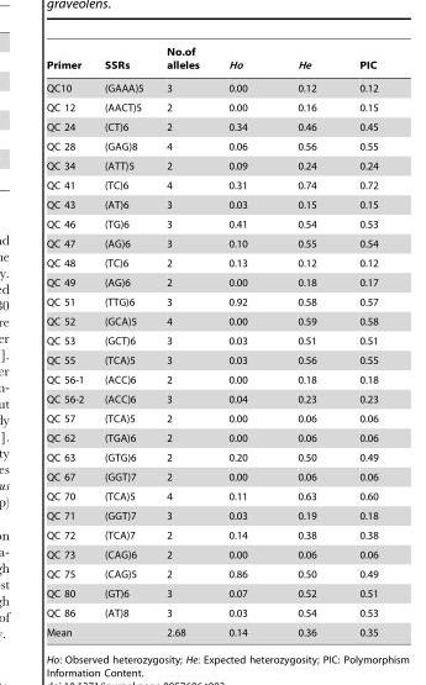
<table><thead><tr><td>Primer</td><td>SSRs</td><td>No.of alleles</td><td>Ho</td><td>He</td><td>PIC</td></tr></thead><tbody><tr><td>QC10</td><td>(GAAA)5</td><td>3</td><td>0.00</td><td>0.12</td><td>0.12</td></tr><tr><td>QC 12</td><td>(AACT)5</td><td>2</td><td>0.00</td><td>0.16</td><td>0.15</td></tr><tr><td>QC 24</td><td>(CT)6</td><td>2</td><td>0.34</td><td>0.46</td><td>0.45</td></tr><tr><td>QC 28</td><td>(GAG)8</td><td>4</td><td>0.06</td><td>0.56</td><td>0.55</td></tr><tr><td>QC 34</td><td>(ATT)5</td><td>2</td><td>0.09</td><td>0.24</td><td>0.24</td></tr><tr><td>QC 41</td><td>(TC)6</td><td>4</td><td>0.31</td><td>0.74</td><td>0.72</td></tr><tr><td>QC 43</td><td>(AT)6</td><td>3</td><td>0.03</td><td>0.15</td><td>0.15</td></tr><tr><td>QC 46</td><td>(TG)6</td><td>3</td><td>0.41</td><td>0.54</td><td>0.53</td></tr><tr><td>QC 47</td><td>(AG)6</td><td>3</td><td>0.10</td><td>0.55</td><td>0.54</td></tr><tr><td>QC 48</td><td>(TC)6</td><td>2</td><td>0.13</td><td>0.12</td><td>0.12</td></tr><tr><td>QC 49</td><td>(AG)6</td><td>2</td><td>0.00</td><td>0.18</td><td>0.17</td></tr><tr><td>QC 51</td><td>(TTG)6</td><td>3</td><td>0.92</td><td>0.58</td><td>0.57</td></tr><tr><td>QC 52</td><td>(GCA)5</td><td>4</td><td>0.00</td><td>0.59</td><td>0.58</td></tr><tr><td>QC 53</td><td>(GCT)6</td><td>3</td><td>0.03</td><td>0.51</td><td>0.51</td></tr><tr><td>QC 55</td><td>(TCA)5</td><td>3</td><td>0.03</td><td>0.56</td><td>0.55</td></tr><tr><td>QC 56-1</td><td>(ACC)6</td><td>2</td><td>0.00</td><td>0.18</td><td>0.18</td></tr><tr><td>QC 56-2</td><td>(ACC)6</td><td>3</td><td>0.04</td><td>0.23</td><td>0.23</td></tr><tr><td>QC 57</td><td>(TCA)5</td><td>2</td><td>0.00</td><td>0.06</td><td>0.06</td></tr><tr><td>QC 62</td><td>(TGA)6</td><td>2</td><td>0.00</td><td>0.06</td><td>0.06</td></tr><tr><td>QC 63</td><td>(GTG)6</td><td>2</td><td>0.20</td><td>0.50</td><td>0.49</td></tr><tr><td>QC 67</td><td>(GGT)7</td><td>2</td><td>0.00</td><td>0.06</td><td>0.06</td></tr><tr><td>QC 70</td><td>(TCA)5</td><td>4</td><td>0.11</td><td>0.63</td><td>0.60</td></tr><tr><td>QC 71</td><td>(GGT)7</td><td>3</td><td>0.03</td><td>0.19</td><td>0.18</td></tr><tr><td>QC 72</td><td>(TCA)7</td><td>2</td><td>0.14</td><td>0.38</td><td>0.38</td></tr><tr><td>QC 73</td><td>(CAG)6</td><td>2</td><td>0.00</td><td>0.06</td><td>0.06</td></tr><tr><td>QC 75</td><td>(CAG)5</td><td>2</td><td>0.86</td><td>0.50</td><td>0.49</td></tr><tr><td>QC 80</td><td>(GT)6</td><td>3</td><td>0.07</td><td>0.52</td><td>0.51</td></tr><tr><td>QC 86</td><td>(AT)8</td><td>3</td><td>0.03</td><td>0.54</td><td>0.53</td></tr><tr><td>Mean</td><td></td><td>2.68</td><td>0.14</td><td>0.36</td><td>0.35</td></tr></tbody></table>